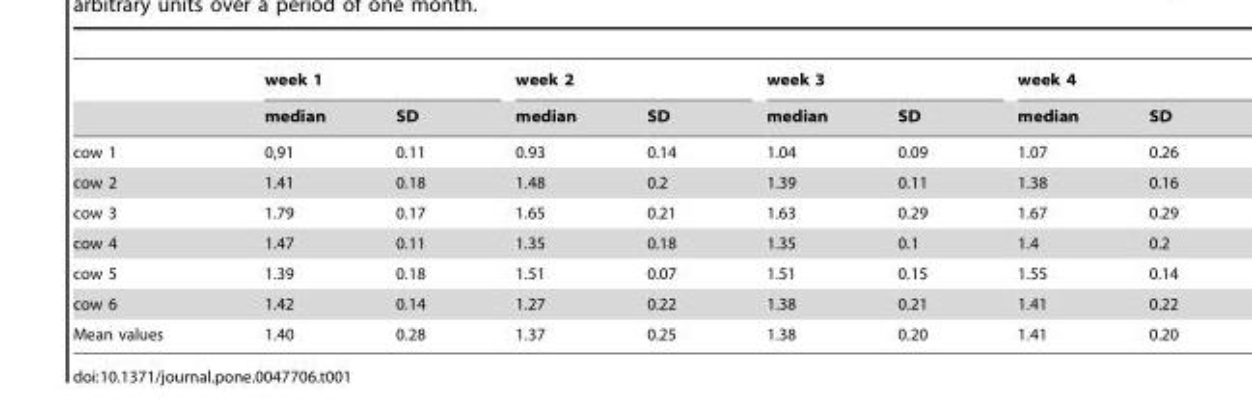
<table><thead><tr><td rowspan="2"></td><td colspan="2">week 1</td><td colspan="2">week 2</td><td colspan="2">week 3</td><td colspan="2">week 4</td></tr><tr><td>median</td><td>SD</td><td>median</td><td>SD</td><td>median</td><td>SD</td><td>median</td><td>SD</td></tr></thead><tbody><tr><td>cow 1</td><td>0,91</td><td>0.11</td><td>0.93</td><td>0.14</td><td>1.04</td><td>0.09</td><td>1.07</td><td>0.26</td></tr><tr><td>cow 2</td><td>1.41</td><td>0.18</td><td>1.48</td><td>0.2</td><td>1.39</td><td>0.11</td><td>1.38</td><td>0.16</td></tr><tr><td>cow 3</td><td>1.79</td><td>0.17</td><td>1.65</td><td>0.21</td><td>1.63</td><td>0.29</td><td>1.67</td><td>0.29</td></tr><tr><td>cow 4</td><td>1.47</td><td>0.11</td><td>1.35</td><td>0.18</td><td>1.35</td><td>0.1</td><td>1.4</td><td>0.2</td></tr><tr><td>cow 5</td><td>1.39</td><td>0.18</td><td>1.51</td><td>0.07</td><td>1.51</td><td>0.15</td><td>1.55</td><td>0.14</td></tr><tr><td>cow 6</td><td>1.42</td><td>0.14</td><td>1.27</td><td>0.22</td><td>1.38</td><td>0.21</td><td>1.41</td><td>0.22</td></tr><tr><td>Mean values</td><td>1.40</td><td>0.28</td><td>1.37</td><td>0.25</td><td>1.38</td><td>0.20</td><td>1.41</td><td>0.20</td></tr></tbody></table>